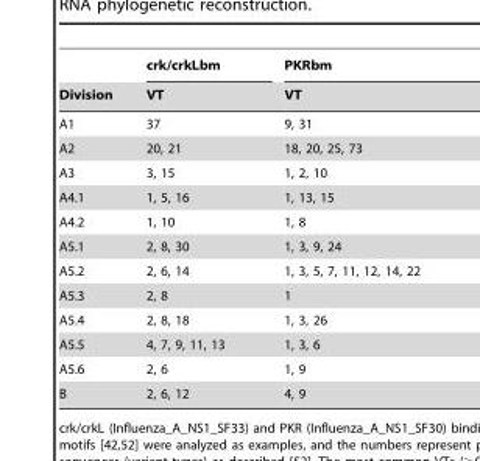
<table><thead><tr><td rowspan="2">Division</td><td rowspan="2">crk/crkLbm VT</td><td rowspan="2">PKRbm VT</td></tr><tr></tr></thead><tbody><tr><td>A1</td><td>37</td><td>9, 31</td></tr><tr><td>A2</td><td>20, 21</td><td>18, 20, 25, 73</td></tr><tr><td>A3</td><td>3, 15</td><td>1, 2, 10</td></tr><tr><td>A4.1</td><td>1, 5, 16</td><td>1, 13, 15</td></tr><tr><td>A4.2</td><td>1, 10</td><td>1, 8</td></tr><tr><td>A5.1</td><td>2, 8, 30</td><td>1, 3, 9, 24</td></tr><tr><td>A5.2</td><td>2, 6, 14</td><td>1, 3, 5, 7, 11, 12, 14, 22</td></tr><tr><td>A5.3</td><td>2, 8</td><td>1</td></tr><tr><td>A5.4</td><td>2, 8, 18</td><td>1, 3, 26</td></tr><tr><td>A5.5</td><td>4, 7, 9, 11, 13</td><td>1, 3, 6</td></tr><tr><td>A5.6</td><td>2, 6</td><td>1, 9</td></tr><tr><td>B</td><td>2, 6, 12</td><td>4, 9</td></tr></tbody></table>